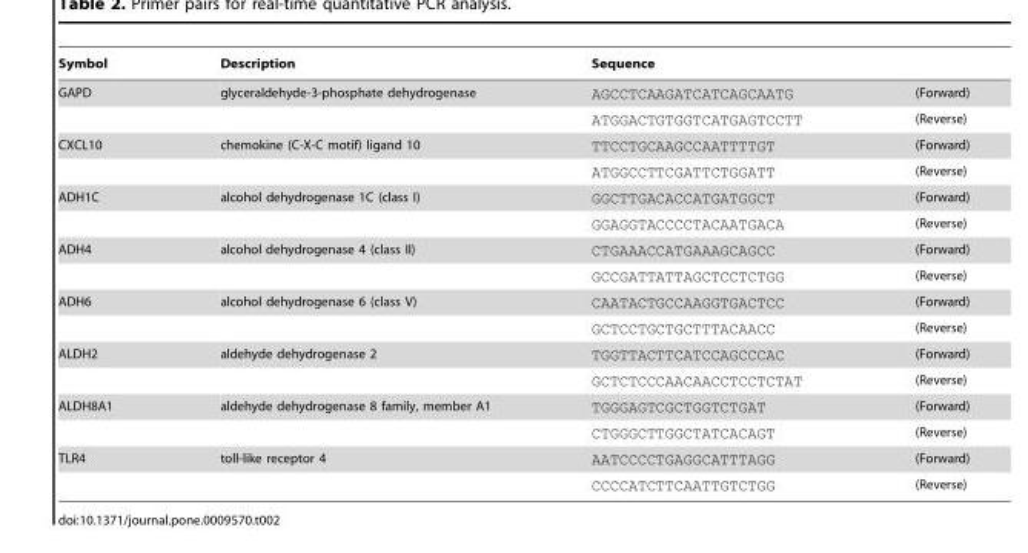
<table><thead><tr><td>Symbol</td><td>Description</td><td>Sequence</td><td></td></tr></thead><tbody><tr><td rowspan="2">GAPD</td><td>glyceraldehyde-3-phosphate dehydrogenase</td><td>AGCCTCAAGATCATCAGCAATG</td><td>(Forward)</td></tr><tr><td></td><td>ATGGACTGTGGTCATGAGTCCTT</td><td>(Reverse)</td></tr><tr><td rowspan="2">CXCL10</td><td>chemokine (C-X-C motif) ligand 10</td><td>TTCCTGCAAGCCAATTTTGT</td><td>(Forward)</td></tr><tr><td></td><td>ATGGCCTTCGATTCTGGATT</td><td>(Reverse)</td></tr><tr><td rowspan="2">ADH1C</td><td>alcohol dehydrogenase 1C (class I)</td><td>GGCTTGACACCATGATGGCT</td><td>(Forward)</td></tr><tr><td></td><td>GGAGGTACCCCTACAATGACA</td><td>(Reverse)</td></tr><tr><td rowspan="2">ADH4</td><td>alcohol dehydrogenase 4 (class II)</td><td>CTGAAACCATGAAAGCAGCC</td><td>(Forward)</td></tr><tr><td></td><td>GCCGATTATTAGCTCCTCTGG</td><td>(Reverse)</td></tr><tr><td rowspan="2">ADH6</td><td>alcohol dehydrogenase 6 (class V)</td><td>CAATACTGCCAAGGTGACTCC</td><td>(Forward)</td></tr><tr><td></td><td>GCTCCTGCTGCTTTACAACC</td><td>(Reverse)</td></tr><tr><td rowspan="2">ALDH2</td><td>aldehyde dehydrogenase 2</td><td>TGGTTACTTCATCCAGCCCAC</td><td>(Forward)</td></tr><tr><td></td><td>GCTCTCCCAACAACCTCCTCTAT</td><td>(Reverse)</td></tr><tr><td rowspan="2">ALDH8A1</td><td>aldehyde dehydrogenase 8 family, member A1</td><td>TGGGAGTCGCTGGTCTGAT</td><td>(Forward)</td></tr><tr><td></td><td>CTGGGCTTGGCTATCACAGT</td><td>(Reverse)</td></tr><tr><td rowspan="2">TLR4</td><td>toll-like receptor 4</td><td>AATCCCCTGAGGCATTTAGG</td><td>(Forward)</td></tr><tr><td></td><td>CCCCATCTTCAATTGTCTGG</td><td>(Reverse)</td></tr></tbody></table>